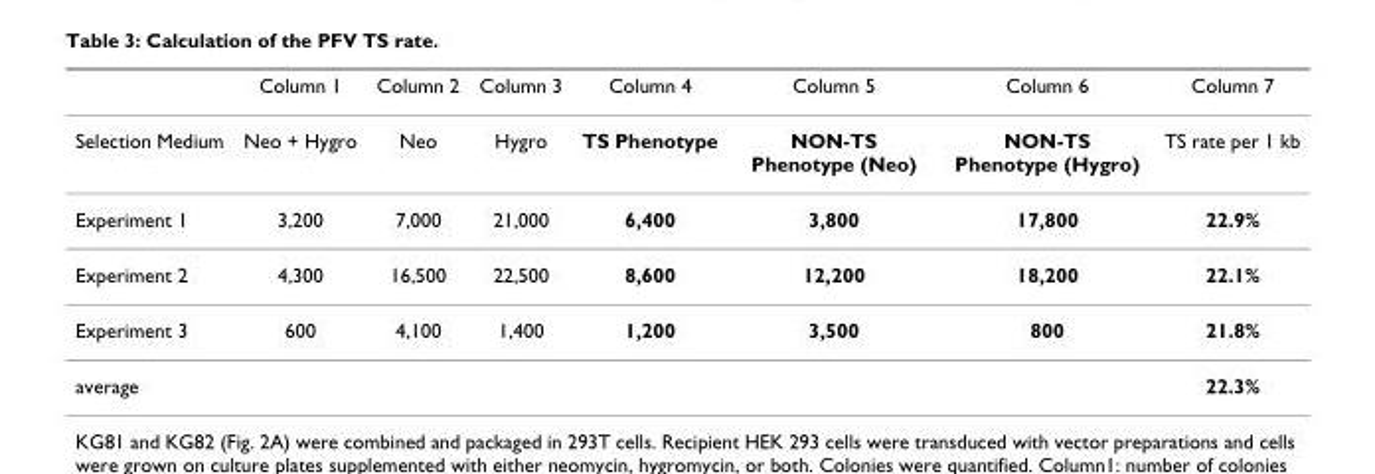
<table><thead><tr><td></td><td>Column 1</td><td>Column 2</td><td>Column 3</td><td>Column 4</td><td>Column 5</td><td>Column 6</td><td>Column 7</td></tr></thead><tbody><tr><td>Selection Medium</td><td>Neo + Hygro</td><td>Neo</td><td>Hygro</td><td>TS Phenotype</td><td>NON-TS Phenotype (Neo)</td><td>NON-TS Phenotype (Hygro)</td><td>TS rate per 1 kb</td></tr><tr><td>Experiment 1</td><td>3,200</td><td>7,000</td><td>21,000</td><td>6,400</td><td>3,800</td><td>17,800</td><td>22.9%</td></tr><tr><td>Experiment 2</td><td>4,300</td><td>16,500</td><td>22,500</td><td>8,600</td><td>12,200</td><td>18,200</td><td>22.1%</td></tr><tr><td>Experiment 3</td><td>600</td><td>4,100</td><td>1,400</td><td>1,200</td><td>3,500</td><td>800</td><td>21.8%</td></tr><tr><td>average</td><td></td><td></td><td></td><td></td><td></td><td></td><td>22.3%</td></tr></tbody></table>